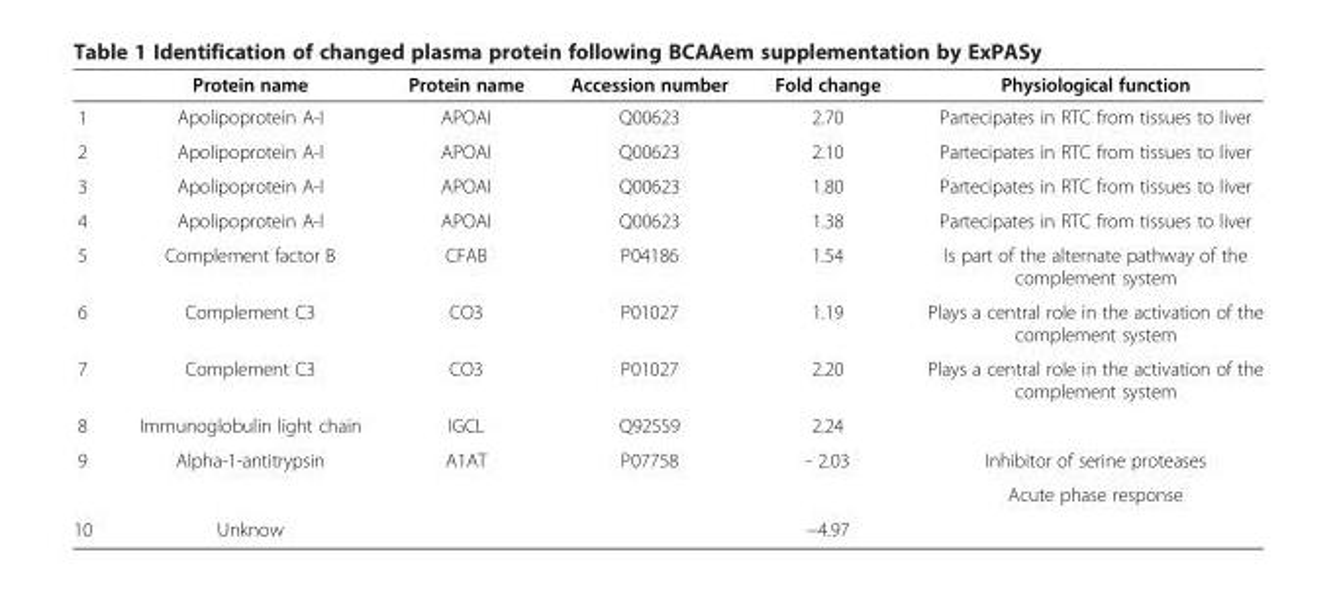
<table><thead><tr><td></td><td>Protein name</td><td>Protein name</td><td>Accession number</td><td>Fold change</td><td>Physiological function</td></tr></thead><tbody><tr><td>1</td><td>Apolipoprotein A-I</td><td>APOAI</td><td>Q00623</td><td>2.70</td><td>Partecipates in RTC from tissues to liver</td></tr><tr><td>2</td><td>Apolipoprotein A-I</td><td>APOAI</td><td>Q00623</td><td>2.10</td><td>Partecipates in RTC from tissues to liver</td></tr><tr><td>3</td><td>Apolipoprotein A-I</td><td>APOAI</td><td>Q00623</td><td>1.80</td><td>Partecipates in RTC from tissues to liver</td></tr><tr><td>4</td><td>Apolipoprotein A-I</td><td>APOAI</td><td>Q00623</td><td>1.38</td><td>Partecipates in RTC from tissues to liver</td></tr><tr><td>5</td><td>Complement factor B</td><td>CFAB</td><td>P04186</td><td>1.54</td><td>Is part of the alternate pathway of the complement system</td></tr><tr><td>6</td><td>Complement C3</td><td>CO3</td><td>P01027</td><td>1.19</td><td>Plays a central role in the activation of the complement system</td></tr><tr><td>7</td><td>Complement C3</td><td>CO3</td><td>P01027</td><td>2.20</td><td>Plays a central role in the activation of the complement system</td></tr><tr><td>8</td><td>Immunoglobulin light chain</td><td>IGCL</td><td>Q925S9</td><td>2.24</td><td></td></tr><tr><td rowspan="2">9</td><td>Alpha-1-antitrypsin</td><td>A1AT</td><td>P07758</td><td>- 2.03</td><td>Inhibitor of serine proteases</td></tr><tr><td></td><td></td><td></td><td></td><td>Acute phase response</td></tr><tr><td>10</td><td>Unknow</td><td></td><td></td><td>−4.97</td><td></td></tr></tbody></table>